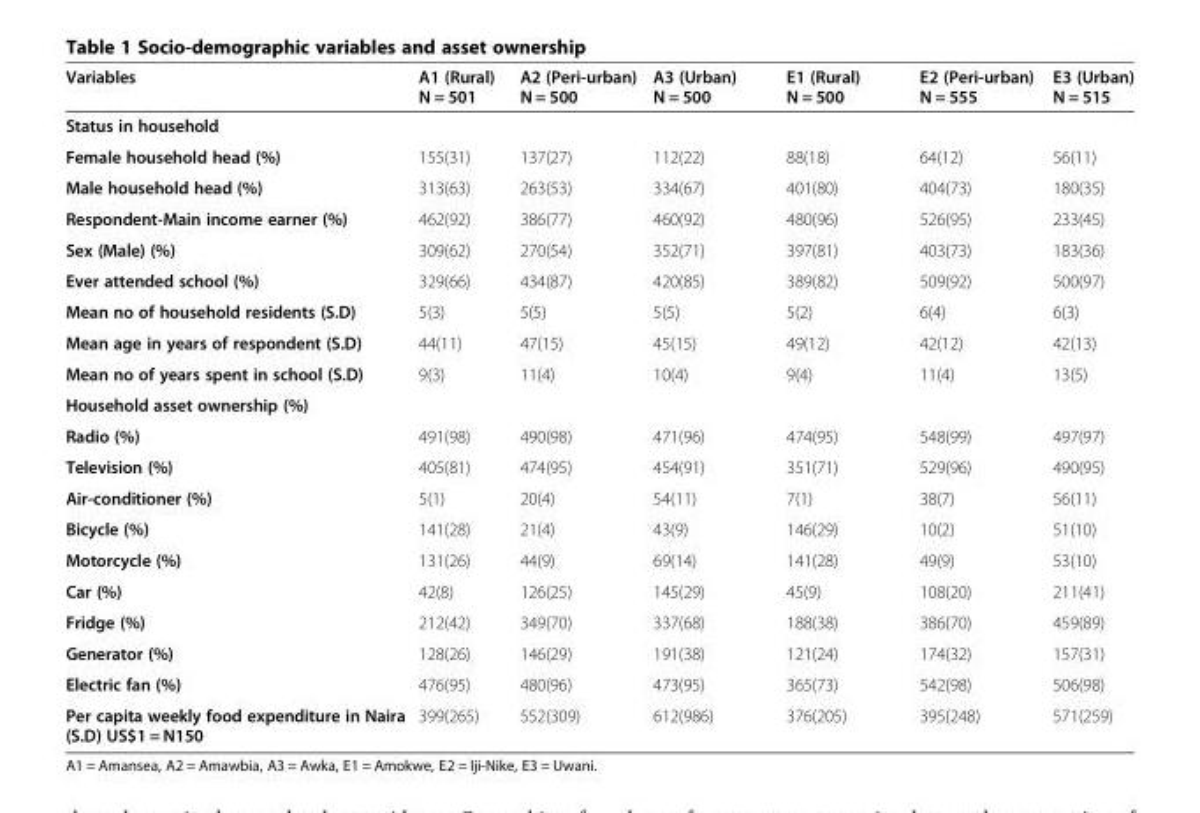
<table><thead><tr><td>Variables</td><td>A1 (Rural) N = 501</td><td>A2 (Peri-urban) N = 500</td><td>A3 (Urban) N = 500</td><td>E1 (Rural) N = 500</td><td>E2 (Peri-urban) N = 555</td><td>E3 (Urban) N = 515</td></tr></thead><tbody><tr><td colspan="7">Status in household</td></tr><tr><td>Female household head (%)</td><td>155(31)</td><td>137(27)</td><td>112(22)</td><td>88(18)</td><td>64(12)</td><td>56(11)</td></tr><tr><td>Male household head (%)</td><td>313(63)</td><td>263(53)</td><td>334(67)</td><td>401(80)</td><td>404(73)</td><td>180(35)</td></tr><tr><td>Respondent-Main income earner (%)</td><td>462(92)</td><td>386(77)</td><td>460(92)</td><td>480(96)</td><td>526(95)</td><td>233(45)</td></tr><tr><td>Sex (Male) (%)</td><td>309(62)</td><td>270(54)</td><td>352(71)</td><td>397(81)</td><td>403(73)</td><td>183(36)</td></tr><tr><td>Ever attended school (%)</td><td>329(66)</td><td>434(87)</td><td>420(85)</td><td>389(82)</td><td>509(92)</td><td>500(97)</td></tr><tr><td>Mean no of household residents (S.D)</td><td>5(3)</td><td>5(5)</td><td>5(5)</td><td>5(2)</td><td>6(4)</td><td>6(3)</td></tr><tr><td>Mean age in years of respondent (S.D)</td><td>44(11)</td><td>47(15)</td><td>45(15)</td><td>49(12)</td><td>42(12)</td><td>42(13)</td></tr><tr><td>Mean no of years spent in school (S.D)</td><td>9(3)</td><td>11(4)</td><td>10(4)</td><td>9(4)</td><td>11(4)</td><td>13(5)</td></tr><tr><td colspan="7">Household asset ownership (%)</td></tr><tr><td>Radio (%)</td><td>491(98)</td><td>490(98)</td><td>471(96)</td><td>474(95)</td><td>548(99)</td><td>497(97)</td></tr><tr><td>Television (%)</td><td>405(81)</td><td>474(95)</td><td>454(91)</td><td>351(71)</td><td>529(96)</td><td>490(95)</td></tr><tr><td>Air-conditioner (%)</td><td>5(1)</td><td>20(4)</td><td>54(11)</td><td>7(1)</td><td>38(7)</td><td>56(11)</td></tr><tr><td>Bicycle (%)</td><td>141(28)</td><td>21(4)</td><td>43(9)</td><td>146(29)</td><td>10(2)</td><td>51(10)</td></tr><tr><td>Motorcycle (%)</td><td>131(26)</td><td>44(9)</td><td>69(14)</td><td>141(28)</td><td>49(9)</td><td>53(10)</td></tr><tr><td>Car (%)</td><td>42(8)</td><td>126(25)</td><td>145(29)</td><td>45(9)</td><td>108(20)</td><td>211(41)</td></tr><tr><td>Fridge (%)</td><td>212(42)</td><td>349(70)</td><td>337(68)</td><td>188(38)</td><td>386(70)</td><td>459(89)</td></tr><tr><td>Generator (%)</td><td>128(26)</td><td>146(29)</td><td>191(38)</td><td>121(24)</td><td>174(32)</td><td>157(31)</td></tr><tr><td>Electric fan (%)</td><td>476(95)</td><td>480(96)</td><td>473(95)</td><td>365(73)</td><td>542(98)</td><td>506(98)</td></tr><tr><td>Per capita weekly food expenditure in Naira (S.D) US$1 = N150</td><td>399(265)</td><td>552(309)</td><td>612(986)</td><td>376(205)</td><td>395(248)</td><td>571(259)</td></tr></tbody></table>